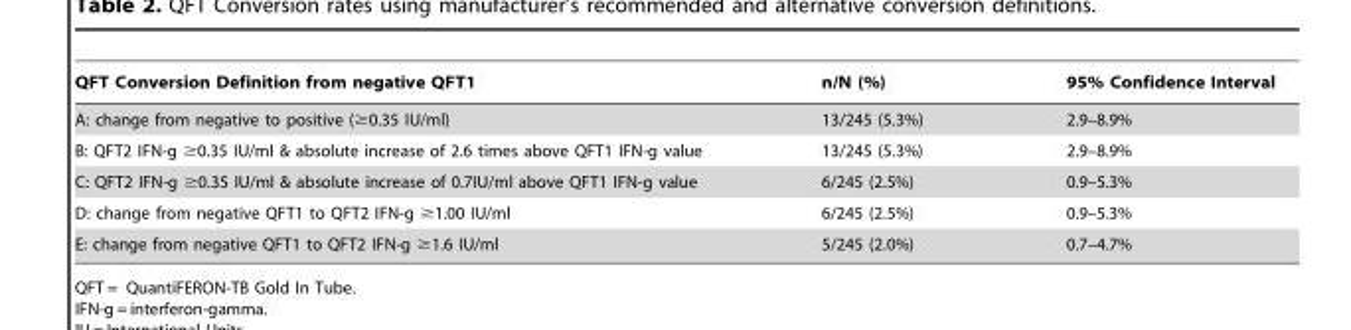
<table><thead><tr><td>QFT Conversion Definition from negative QFT1</td><td>n/N (%)</td><td>95% Confidence Interval</td></tr></thead><tbody><tr><td>A: change from negative to positive (≥0.35 IU/ml)</td><td>13/245 (5.3%)</td><td>2.9–8.9%</td></tr><tr><td>B: QFT2 IFN-g ≥0.35 IU/ml &amp; absolute increase of 2.6 times above QFT1 IFN-g value</td><td>13/245 (5.3%)</td><td>2.9–8.9%</td></tr><tr><td>C: QFT2 IFN-g ≥0.35 IU/ml &amp; absolute increase of 0.7IU/ml above QFT1 IFN-g value</td><td>6/245 (2.5%)</td><td>0.9–5.3%</td></tr><tr><td>D: change from negative QFT1 to QFT2 IFN-g ≥1.00 IU/ml</td><td>6/245 (2.5%)</td><td>0.9–5.3%</td></tr><tr><td>E: change from negative QFT1 to QFT2 IFN-g ≥1.6 IU/ml</td><td>5/245 (2.0%)</td><td>0.7–4.7%</td></tr></tbody></table>